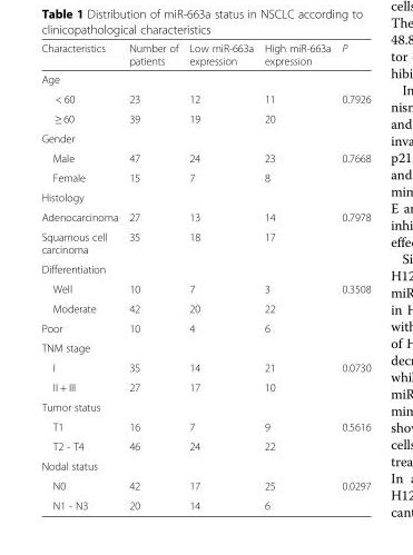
<table><thead><tr><td>Characteristics</td><td>Number of patients</td><td>Low miR-663a expression</td><td>High miR-663a expression</td><td>P</td></tr></thead><tbody><tr><td colspan="5">Age</td></tr><tr><td>&lt; 60</td><td>23</td><td>12</td><td>11</td><td>0.7926</td></tr><tr><td>≥ 60</td><td>39</td><td>19</td><td>20</td><td></td></tr><tr><td colspan="5">Gender</td></tr><tr><td>Male</td><td>47</td><td>24</td><td>23</td><td>0.7668</td></tr><tr><td>Female</td><td>15</td><td>7</td><td>8</td><td></td></tr><tr><td colspan="5">Histology</td></tr><tr><td>Adenocarcinoma</td><td>27</td><td>13</td><td>14</td><td>0.7978</td></tr><tr><td>Squamous cell carcinoma</td><td>35</td><td>18</td><td>17</td><td></td></tr><tr><td colspan="5">Differentiation</td></tr><tr><td>Well</td><td>10</td><td>7</td><td>3</td><td>0.3508</td></tr><tr><td>Moderate</td><td>42</td><td>20</td><td>22</td><td></td></tr><tr><td>Poor</td><td>10</td><td>4</td><td>6</td><td></td></tr><tr><td colspan="5">TNM stage</td></tr><tr><td>I</td><td>35</td><td>14</td><td>21</td><td>0.0730</td></tr><tr><td>II + III</td><td>27</td><td>17</td><td>10</td><td></td></tr><tr><td colspan="5">Tumor status</td></tr><tr><td>T1</td><td>16</td><td>7</td><td>9</td><td>0.5616</td></tr><tr><td>T2 - T4</td><td>46</td><td>24</td><td>22</td><td></td></tr><tr><td colspan="5">Nodal status</td></tr><tr><td>N0</td><td>42</td><td>17</td><td>25</td><td>0.0297</td></tr><tr><td>N1 - N3</td><td>20</td><td>14</td><td>6</td><td></td></tr></tbody></table>